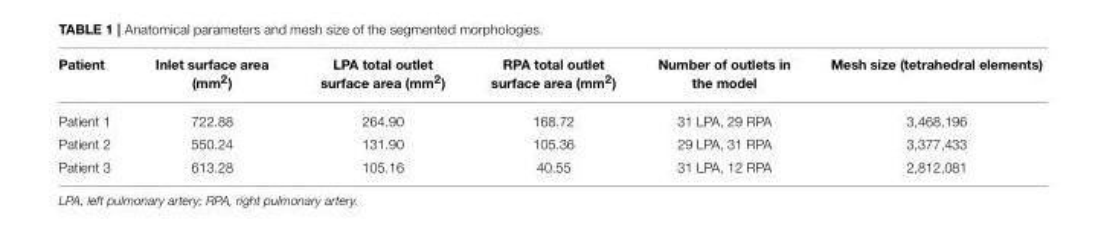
<table><thead><tr><td>Patient</td><td>Inlet surface area (mm<sup>2</sup>)</td><td>LPA total outlet surface area (mm<sup>2</sup>)</td><td>RPA total outlet surface area (mm<sup>2</sup>)</td><td>Number of outlets in the model</td><td>Mesh size (tetrahedral elements)</td></tr></thead><tbody><tr><td>Patient 1</td><td>722.88</td><td>264.90</td><td>168.72</td><td>31 LPA, 29 RPA</td><td>3,468,196</td></tr><tr><td>Patient 2</td><td>550.24</td><td>131.90</td><td>105.36</td><td>29 LPA, 31 RPA</td><td>3,377,433</td></tr><tr><td>Patient 3</td><td>613.28</td><td>105.16</td><td>40.55</td><td>31 LPA, 12 RPA</td><td>2,812,081</td></tr></tbody></table>